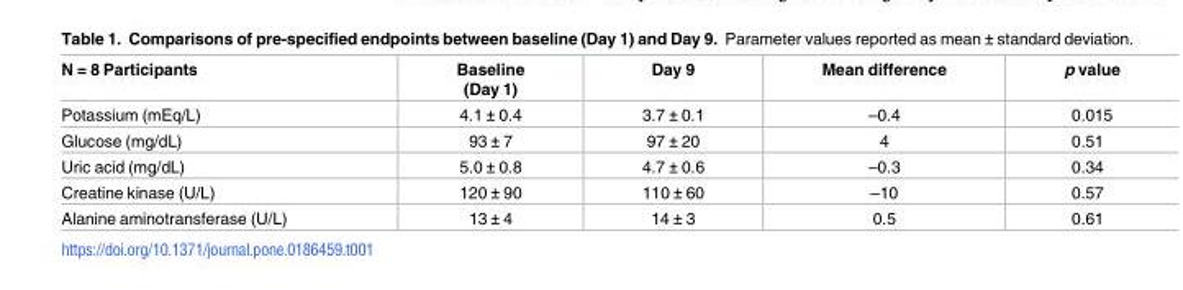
<table><thead><tr><td>N = 8 Participants</td><td>Baseline (Day 1)</td><td>Day 9</td><td>Mean difference</td><td>p value</td></tr></thead><tbody><tr><td>Potassium (mEq/L)</td><td>4.1 ± 0.4</td><td>3.7 ± 0.1</td><td>–0.4</td><td>0.015</td></tr><tr><td>Glucose (mg/dL)</td><td>93 ± 7</td><td>97 ± 20</td><td>4</td><td>0.51</td></tr><tr><td>Uric acid (mg/dL)</td><td>5.0 ± 0.8</td><td>4.7 ± 0.6</td><td>–0.3</td><td>0.34</td></tr><tr><td>Creatine kinase (U/L)</td><td>120 ± 90</td><td>110 ± 60</td><td>–10</td><td>0.57</td></tr><tr><td>Alanine aminotransferase (U/L)</td><td>13 ± 4</td><td>14 ± 3</td><td>0.5</td><td>0.61</td></tr></tbody></table>